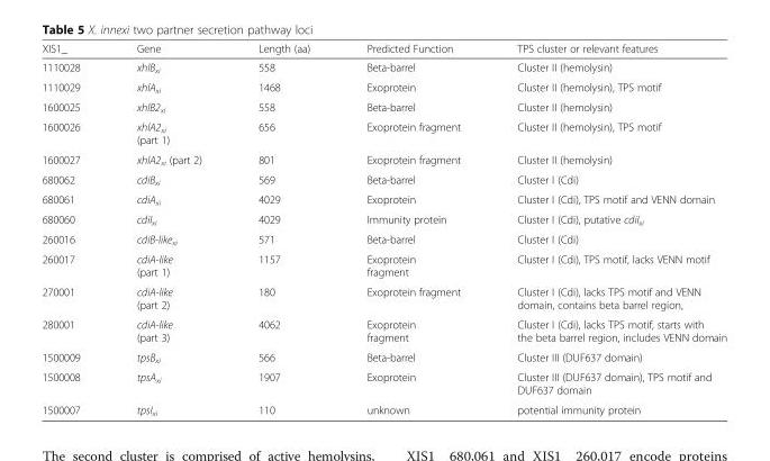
<table><thead><tr><td>XIS1_</td><td>Gene</td><td>Length (aa)</td><td>Predicted Function</td><td>TPS cluster or relevant features</td></tr></thead><tbody><tr><td>1110028</td><td>xhlB<sub>xi</sub></td><td>558</td><td>Beta-barrel</td><td>Cluster II (hemolysin)</td></tr><tr><td>1110029</td><td>xhlA<sub>xi</sub></td><td>1468</td><td>Exoprotein</td><td>Cluster II (hemolysin), TPS motif</td></tr><tr><td>1600025</td><td>xhlB2<sub>xi</sub></td><td>558</td><td>Beta-barrel</td><td>Cluster II (hemolysin)</td></tr><tr><td>1600026</td><td>xhlA2<sub>xi</sub> (part 1)</td><td>656</td><td>Exoprotein fragment</td><td>Cluster II (hemolysin), TPS motif</td></tr><tr><td>1600027</td><td>xhlA2<sub>xi</sub> (part 2)</td><td>801</td><td>Exoprotein fragment</td><td>Cluster II (hemolysin)</td></tr><tr><td>680062</td><td>cdiB<sub>xi</sub></td><td>569</td><td>Beta-barrel</td><td>Cluster I (Cdi)</td></tr><tr><td>680061</td><td>cdiA<sub>xi</sub></td><td>4029</td><td>Exoprotein</td><td>Cluster I (Cdi), TPS motif and VENN domain</td></tr><tr><td>680060</td><td>cdiI<sub>xi</sub></td><td>4029</td><td>Immunity protein</td><td>Cluster I (Cdi), putative cdiI<sub>xi</sub></td></tr><tr><td>260016</td><td>cdiB-like<sub>xi</sub></td><td>571</td><td>Beta-barrel</td><td>Cluster I (Cdi)</td></tr><tr><td>260017</td><td>cdiA-like (part 1)</td><td>1157</td><td>Exoprotein fragment</td><td>Cluster I (Cdi), TPS motif, lacks VENN motif</td></tr><tr><td>270001</td><td>cdiA-like (part 2)</td><td>180</td><td>Exoprotein fragment</td><td>Cluster I (Cdi), lacks TPS motif and VENN domain, contains beta barrel region,</td></tr><tr><td>280001</td><td>cdiA-like (part 3)</td><td>4062</td><td>Exoprotein fragment</td><td>Cluster I (Cdi), lacks TPS motif, starts with the beta barrel region, includes VENN domain</td></tr><tr><td>1500009</td><td>tpsB<sub>xi</sub></td><td>566</td><td>Beta-barrel</td><td>Cluster III (DUF637 domain)</td></tr><tr><td>1500008</td><td>tpsA<sub>xi</sub></td><td>1907</td><td>Exoprotein</td><td>Cluster III (DUF637 domain), TPS motif and DUF637 domain</td></tr><tr><td>1500007</td><td>tpsI<sub>xi</sub></td><td>110</td><td>unknown</td><td>potential immunity protein</td></tr></tbody></table>